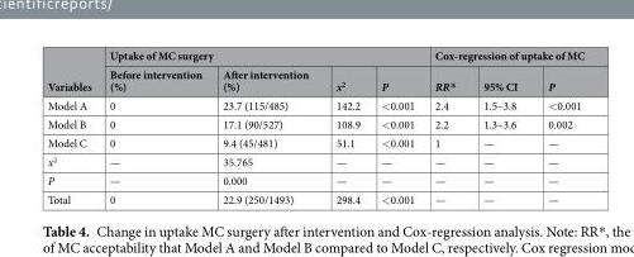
<table><thead><tr><td rowspan="2">Variables</td><td colspan="4">Uptake of MC surgery</td><td colspan="3">Cox-regression of uptake of MC</td></tr><tr><td>Before intervention (%)</td><td>After intervention (%)</td><td>x<sup>2</sup></td><td>P</td><td>RR*</td><td>95% CI</td><td>P</td></tr></thead><tbody><tr><td>Model A</td><td>0</td><td>23.7 (115/485)</td><td>142.2</td><td>&lt;0.001</td><td>2.4</td><td>1.5–3.8</td><td>&lt;0.001</td></tr><tr><td>Model B</td><td>0</td><td>17.1 (90/527)</td><td>108.9</td><td>&lt;0.001</td><td>2.2</td><td>1.3–3.6</td><td>0.002</td></tr><tr><td>Model C</td><td>0</td><td>9.4 (45/481)</td><td>51.1</td><td>&lt;0.001</td><td>1</td><td>—</td><td>—</td></tr><tr><td>x<sup>2</sup></td><td>—</td><td>35.765</td><td>—</td><td>—</td><td>—</td><td>—</td><td>—</td></tr><tr><td>P</td><td>—</td><td>0.000</td><td>—</td><td>—</td><td>—</td><td>—</td><td>—</td></tr><tr><td>Total</td><td>0</td><td>22.9 (250/1493)</td><td>298.4</td><td>&lt;0.001</td><td>—</td><td>—</td><td>—</td></tr></tbody></table>